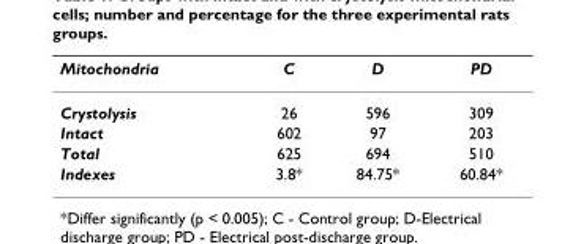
<table><thead><tr><td>Mitochondria</td><td>C</td><td>D</td><td>PD</td></tr></thead><tbody><tr><td>Crystolysis</td><td>26</td><td>596</td><td>309</td></tr><tr><td>Intact</td><td>602</td><td>97</td><td>203</td></tr><tr><td>Total</td><td>625</td><td>694</td><td>510</td></tr><tr><td>Indexes</td><td>3.8*</td><td>84.75*</td><td>60.84*</td></tr></tbody></table>